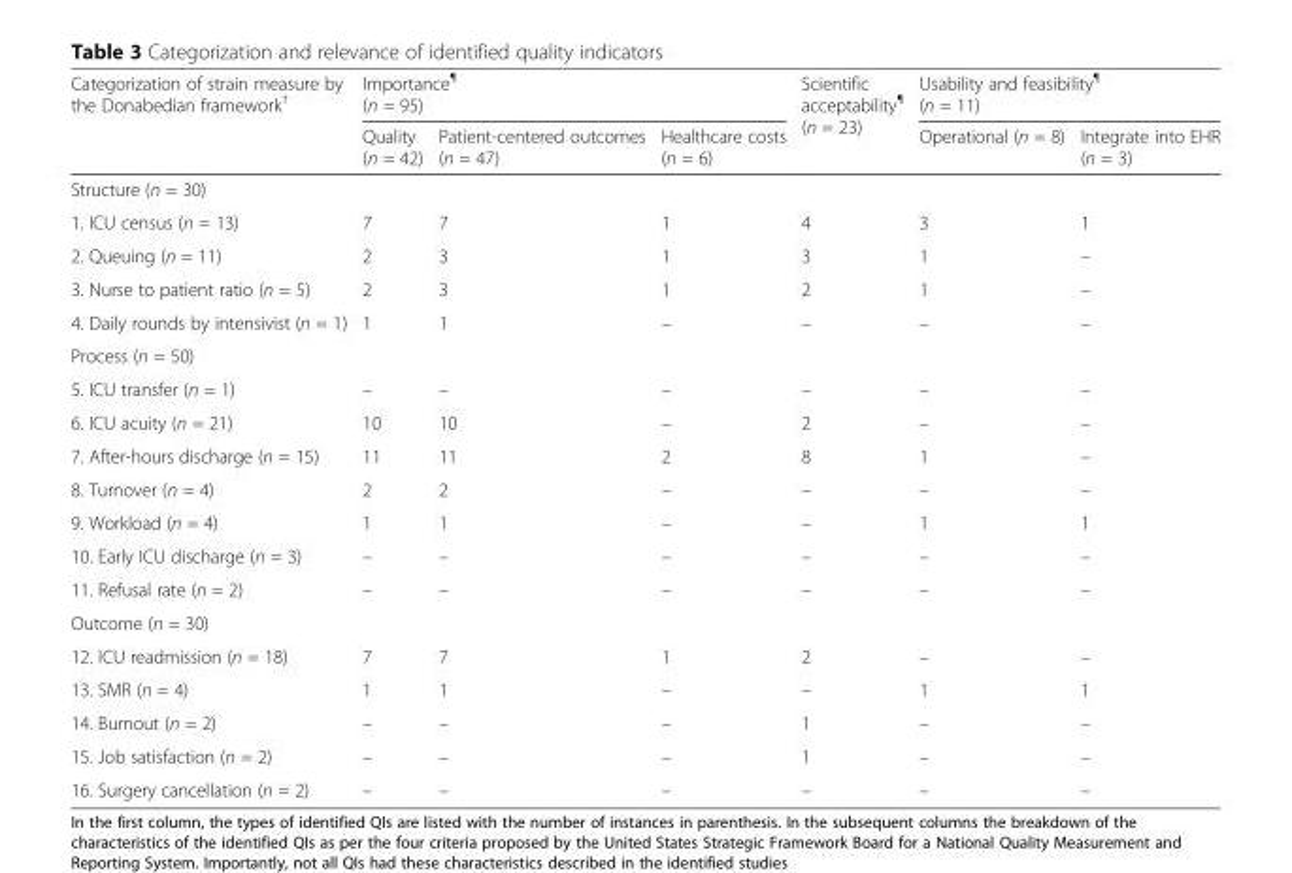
<table><thead><tr><td rowspan="2">Categorization of strain measure by the Donabedian framework<sup>†</sup></td><td colspan="3">Importance<sup>¶</sup> (n = 95)</td><td rowspan="2">Scientific acceptability<sup>¶</sup> (n = 23)</td><td colspan="2">Usability and feasibility<sup>¶</sup> (n = 11)</td></tr><tr><td>Quality (n = 42)</td><td>Patient-centered outcomes (n = 47)</td><td>Healthcare costs (n = 6)</td><td>Operational (n = 8)</td><td>Integrate into EHR (n = 3)</td></tr></thead><tbody><tr><td colspan="7">Structure (n = 30)</td></tr><tr><td>1. ICU census (n = 13)</td><td>7</td><td>7</td><td>1</td><td>4</td><td>3</td><td>1</td></tr><tr><td>2. Queuing (n = 11)</td><td>2</td><td>3</td><td>1</td><td>3</td><td>1</td><td>–</td></tr><tr><td>3. Nurse to patient ratio (n = 5)</td><td>2</td><td>3</td><td>1</td><td>2</td><td>1</td><td>–</td></tr><tr><td>4. Daily rounds by intensivist (n = 1)</td><td>1</td><td>1</td><td>–</td><td>–</td><td>–</td><td>–</td></tr><tr><td colspan="7">Process (n = 50)</td></tr><tr><td>5. ICU transfer (n = 1)</td><td>–</td><td>–</td><td>–</td><td>–</td><td>–</td><td>–</td></tr><tr><td>6. ICU acuity (n = 21)</td><td>10</td><td>10</td><td>–</td><td>2</td><td>–</td><td>–</td></tr><tr><td>7. After-hours discharge (n = 15)</td><td>11</td><td>11</td><td>2</td><td>8</td><td>1</td><td>–</td></tr><tr><td>8. Turnover (n = 4)</td><td>2</td><td>2</td><td>–</td><td>–</td><td>–</td><td>–</td></tr><tr><td>9. Workload (n = 4)</td><td>1</td><td>1</td><td>–</td><td>–</td><td>1</td><td>1</td></tr><tr><td>10. Early ICU discharge (n = 3)</td><td>–</td><td>–</td><td>–</td><td>–</td><td>–</td><td>–</td></tr><tr><td>11. Refusal rate (n = 2)</td><td>–</td><td>–</td><td>–</td><td>–</td><td>–</td><td>–</td></tr><tr><td colspan="7">Outcome (n = 30)</td></tr><tr><td>12. ICU readmission (n = 18)</td><td>7</td><td>7</td><td>1</td><td>2</td><td>–</td><td>–</td></tr><tr><td>13. SMR (n = 4)</td><td>1</td><td>1</td><td>–</td><td>–</td><td>1</td><td>1</td></tr><tr><td>14. Burnout (n = 2)</td><td>–</td><td>–</td><td>–</td><td>1</td><td>–</td><td>–</td></tr><tr><td>15. Job satisfaction (n = 2)</td><td>–</td><td>–</td><td>–</td><td>1</td><td>–</td><td>–</td></tr><tr><td>16. Surgery cancellation (n = 2)</td><td>–</td><td>–</td><td>–</td><td>–</td><td>–</td><td>–</td></tr></tbody></table>